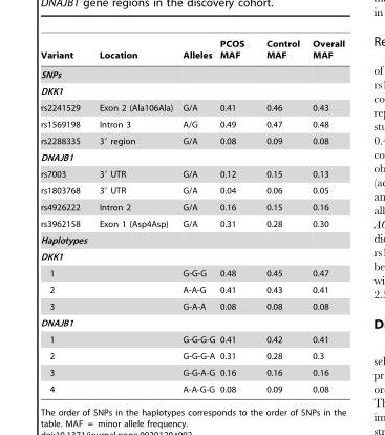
<table><thead><tr><td>Variant</td><td>Location</td><td>Alleles</td><td>PCOS MAF</td><td>Control MAF</td><td>Overall MAF</td></tr></thead><tbody><tr><td colspan="6">SNPs</td></tr><tr><td colspan="6">DKK1</td></tr><tr><td>rs2241529</td><td>Exon 2 (Ala106Ala)</td><td>G/A</td><td>0.41</td><td>0.46</td><td>0.43</td></tr><tr><td>rs1569198</td><td>Intron 3</td><td>A/G</td><td>0.49</td><td>0.47</td><td>0.48</td></tr><tr><td>rs2288335</td><td>3′ region</td><td>G/A</td><td>0.08</td><td>0.09</td><td>0.08</td></tr><tr><td colspan="6">DNAJB1</td></tr><tr><td>rs7003</td><td>3′ UTR</td><td>G/A</td><td>0.12</td><td>0.15</td><td>0.13</td></tr><tr><td>rs1803768</td><td>3′ UTR</td><td>G/A</td><td>0.04</td><td>0.06</td><td>0.05</td></tr><tr><td>rs4926222</td><td>Intron 2</td><td>G/A</td><td>0.16</td><td>0.15</td><td>0.16</td></tr><tr><td>rs3962158</td><td>Exon 1 (Asp4Asp)</td><td>G/A</td><td>0.31</td><td>0.28</td><td>0.30</td></tr><tr><td colspan="6">Haplotypes</td></tr><tr><td colspan="6">DKK1</td></tr><tr><td>1</td><td></td><td>G-G-G</td><td>0.48</td><td>0.45</td><td>0.47</td></tr><tr><td>2</td><td></td><td>A-A-G</td><td>0.41</td><td>0.43</td><td>0.41</td></tr><tr><td>3</td><td></td><td>G-A-A</td><td>0.08</td><td>0.08</td><td>0.08</td></tr><tr><td colspan="6">DNAJB1</td></tr><tr><td>1</td><td></td><td>G-G-G-G</td><td>0.41</td><td>0.42</td><td>0.41</td></tr><tr><td>2</td><td></td><td>G-G-G-A</td><td>0.31</td><td>0.28</td><td>0.3</td></tr><tr><td>3</td><td></td><td>G-G-A-G</td><td>0.16</td><td>0.16</td><td>0.16</td></tr><tr><td>4</td><td></td><td>A-A-G-G</td><td>0.08</td><td>0.09</td><td>0.08</td></tr></tbody></table>